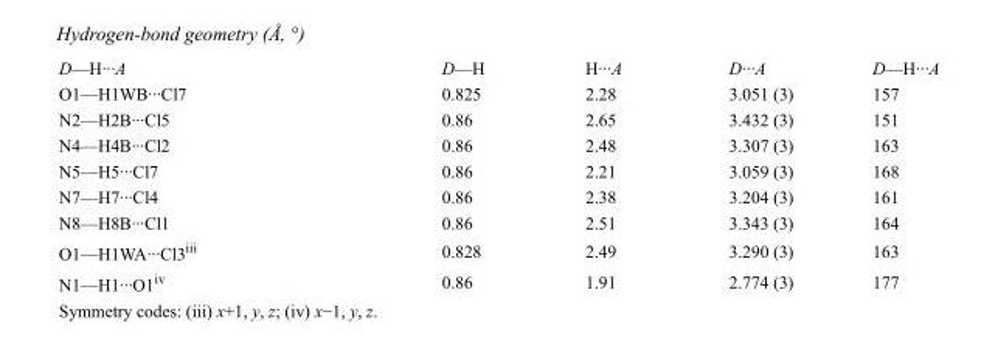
<table><tbody><tr><td>D—H···A</td><td>D—H</td><td>H···A</td><td>D···A</td><td>D—H···A</td></tr><tr><td>O1—H1WB···Cl7</td><td>0.825</td><td>2.28</td><td>3.051 (3)</td><td>157</td></tr><tr><td>N2—H2B···Cl5</td><td>0.86</td><td>2.65</td><td>3.432 (3)</td><td>151</td></tr><tr><td>N4—H4B···Cl2</td><td>0.86</td><td>2.48</td><td>3.307 (3)</td><td>163</td></tr><tr><td>N5—H5···Cl7</td><td>0.86</td><td>2.21</td><td>3.059 (3)</td><td>168</td></tr><tr><td>N7—H7···Cl4</td><td>0.86</td><td>2.38</td><td>3.204 (3)</td><td>161</td></tr><tr><td>N8—H8B···Cl1</td><td>0.86</td><td>2.51</td><td>3.343 (3)</td><td>164</td></tr><tr><td>O1—H1WA···Cl3<sup>iii</sup></td><td>0.828</td><td>2.49</td><td>3.290 (3)</td><td>163</td></tr><tr><td>N1—H1···O1<sup>iv</sup></td><td>0.86</td><td>1.91</td><td>2.774 (3)</td><td>177</td></tr></tbody></table>